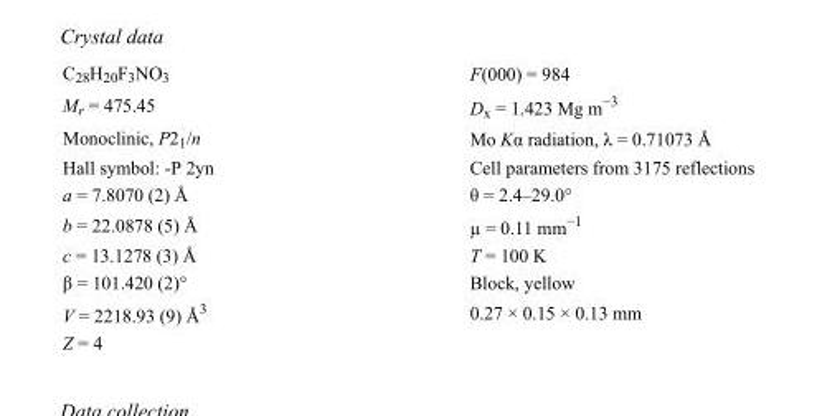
<table><tbody><tr><td>C<sub>28</sub>H<sub>20</sub>F<sub>3</sub>NO<sub>3</sub></td><td>F(000) = 984</td></tr><tr><td>M<sub>r</sub> = 475.45</td><td>D<sub>x</sub> = 1.423 Mg m<sup>−3</sup></td></tr><tr><td>Monoclinic, P2<sub>1</sub>/n</td><td>Mo Kα radiation, λ = 0.71073 Å</td></tr><tr><td>Hall symbol: -P 2yn</td><td>Cell parameters from 3175 reflections</td></tr><tr><td>a = 7.8070 (2) Å</td><td>θ = 2.4–29.0°</td></tr><tr><td>b = 22.0878 (5) Å</td><td>µ = 0.11 mm<sup>−1</sup></td></tr><tr><td>c = 13.1278 (3) Å</td><td>T = 100 K</td></tr><tr><td>β = 101.420 (2)°</td><td>Block, yellow</td></tr><tr><td>V = 2218.93 (9) Å<sup>3</sup></td><td>0.27 × 0.15 × 0.13 mm</td></tr><tr><td>Z = 4</td><td></td></tr></tbody></table>